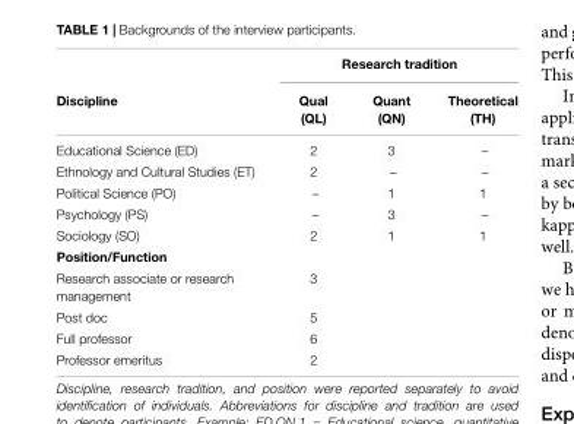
<table><thead><tr><td rowspan="2">Discipline</td><td colspan="3">Research tradition</td></tr><tr><td>Qual (QL)</td><td>Quant (QN)</td><td>Theoretical (TH)</td></tr></thead><tbody><tr><td>Educational Science (ED)</td><td>2</td><td>3</td><td>–</td></tr><tr><td>Ethnology and Cultural Studies (ET)</td><td>2</td><td>–</td><td>–</td></tr><tr><td>Political Science (PO)</td><td>–</td><td>1</td><td>1</td></tr><tr><td>Psychology (PS)</td><td>–</td><td>3</td><td>–</td></tr><tr><td>Sociology (SO)</td><td>2</td><td>1</td><td>1</td></tr><tr><td colspan="4">Position/Function</td></tr><tr><td>Research associate or research management</td><td>3</td><td></td><td></td></tr><tr><td>Post doc</td><td>5</td><td></td><td></td></tr><tr><td>Full professor</td><td>6</td><td></td><td></td></tr><tr><td>Professor emeritus</td><td>2</td><td></td><td></td></tr></tbody></table>